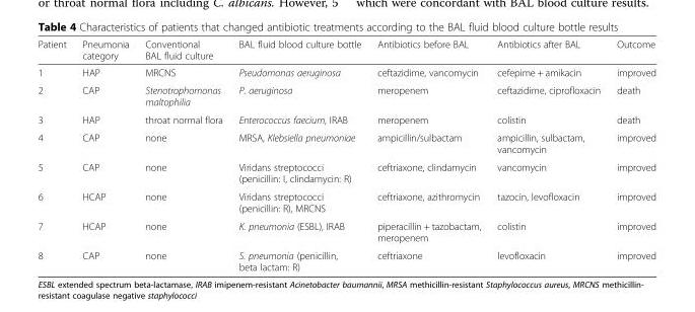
<table><thead><tr><td>Patient</td><td>Pneumonia category</td><td>Conventional BAL fluid culture</td><td>BAL fluid blood culture bottle</td><td>Antibiotics before BAL</td><td>Antibiotics after BAL</td><td>Outcome</td></tr></thead><tbody><tr><td>1</td><td>HAP</td><td>MRCNS</td><td>Pseudomonas aeruginosa</td><td>ceftazidime, vancomycin</td><td>cefepime + amikacin</td><td>improved</td></tr><tr><td>2</td><td>CAP</td><td>Stenotrophomonas maltophilia</td><td>P. aeruginosa</td><td>meropenem</td><td>ceftazidime, ciprofloxacin</td><td>death</td></tr><tr><td>3</td><td>HAP</td><td>throat normal flora</td><td>Enterococcus faecium, IRAB</td><td>meropenem</td><td>colistin</td><td>death</td></tr><tr><td>4</td><td>CAP</td><td>none</td><td>MRSA, Klebsiella pneumoniae</td><td>ampicillin/sulbactam</td><td>ampicillin, sulbactam, vancomycin</td><td>improved</td></tr><tr><td>5</td><td>CAP</td><td>none</td><td>Viridans streptococci (penicillin: I, clindamycin: R)</td><td>ceftriaxone, clindamycin</td><td>vancomycin</td><td>improved</td></tr><tr><td>6</td><td>HCAP</td><td>none</td><td>Viridans streptococci (penicillin: R), MRCNS</td><td>ceftriaxone, azithromycin</td><td>tazocin, levofloxacin</td><td>improved</td></tr><tr><td>7</td><td>HCAP</td><td>none</td><td>K. pneumonia (ESBL), IRAB</td><td>piperacillin + tazobactam, meropenem</td><td>colistin</td><td>improved</td></tr><tr><td>8</td><td>CAP</td><td>none</td><td>S. pneumonia (penicillin, beta lactam: R)</td><td>ceftriaxone</td><td>levofloxacin</td><td>improved</td></tr></tbody></table>